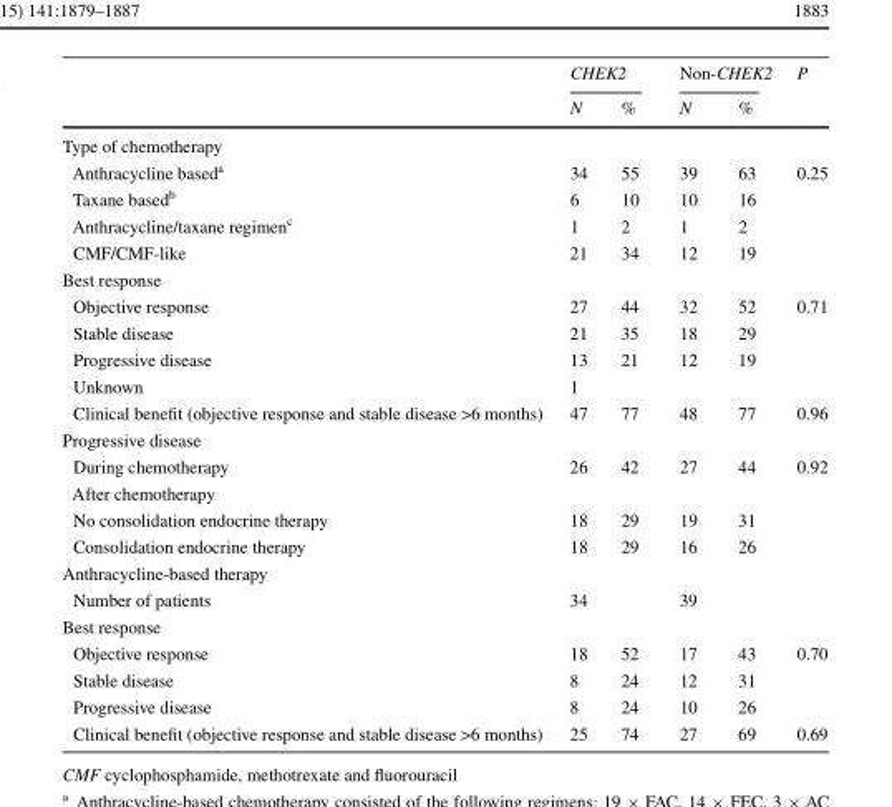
<table><thead><tr><td rowspan="2"></td><td colspan="2">CHEK2</td><td colspan="2">Non-CHEK2</td><td rowspan="2">P</td></tr><tr><td>N</td><td>%</td><td>N</td><td>%</td></tr></thead><tbody><tr><td colspan="6">Type of chemotherapy</td></tr><tr><td>Anthracycline based<sup>a</sup></td><td>34</td><td>55</td><td>39</td><td>63</td><td>0.25</td></tr><tr><td>Taxane based<sup>b</sup></td><td>6</td><td>10</td><td>10</td><td>16</td><td></td></tr><tr><td>Anthracycline/taxane regimen<sup>c</sup></td><td>1</td><td>2</td><td>1</td><td>2</td><td></td></tr><tr><td>CMF/CMF-like</td><td>21</td><td>34</td><td>12</td><td>19</td><td></td></tr><tr><td colspan="6">Best response</td></tr><tr><td>Objective response</td><td>27</td><td>44</td><td>32</td><td>52</td><td>0.71</td></tr><tr><td>Stable disease</td><td>21</td><td>35</td><td>18</td><td>29</td><td></td></tr><tr><td>Progressive disease</td><td>13</td><td>21</td><td>12</td><td>19</td><td></td></tr><tr><td>Unknown</td><td>1</td><td></td><td></td><td></td><td></td></tr><tr><td>Clinical benefit (objective response and stable disease &gt;6 months)</td><td>47</td><td>77</td><td>48</td><td>77</td><td>0.96</td></tr><tr><td colspan="6">Progressive disease</td></tr><tr><td>During chemotherapy</td><td>26</td><td>42</td><td>27</td><td>44</td><td>0.92</td></tr><tr><td colspan="6">After chemotherapy</td></tr><tr><td>No consolidation endocrine therapy</td><td>18</td><td>29</td><td>19</td><td>31</td><td></td></tr><tr><td>Consolidation endocrine therapy</td><td>18</td><td>29</td><td>16</td><td>26</td><td></td></tr><tr><td colspan="6">Anthracycline-based therapy</td></tr><tr><td>Number of patients</td><td>34</td><td></td><td>39</td><td></td><td></td></tr><tr><td colspan="6">Best response</td></tr><tr><td>Objective response</td><td>18</td><td>52</td><td>17</td><td>43</td><td>0.70</td></tr><tr><td>Stable disease</td><td>8</td><td>24</td><td>12</td><td>31</td><td></td></tr><tr><td>Progressive disease</td><td>8</td><td>24</td><td>10</td><td>26</td><td></td></tr><tr><td>Clinical benefit (objective response and stable disease &gt;6 months)</td><td>25</td><td>74</td><td>27</td><td>69</td><td>0.69</td></tr></tbody></table>